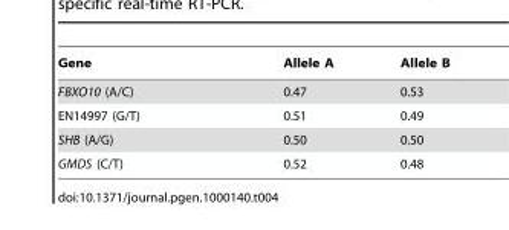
<table><thead><tr><td>Gene</td><td>Allele A</td><td>Allele B</td></tr></thead><tbody><tr><td>FBXO10 (A/C)</td><td>0.47</td><td>0.53</td></tr><tr><td>EN14997 (G/T)</td><td>0.51</td><td>0.49</td></tr><tr><td>SHB (A/G)</td><td>0.50</td><td>0.50</td></tr><tr><td>GMDS (C/T)</td><td>0.52</td><td>0.48</td></tr></tbody></table>